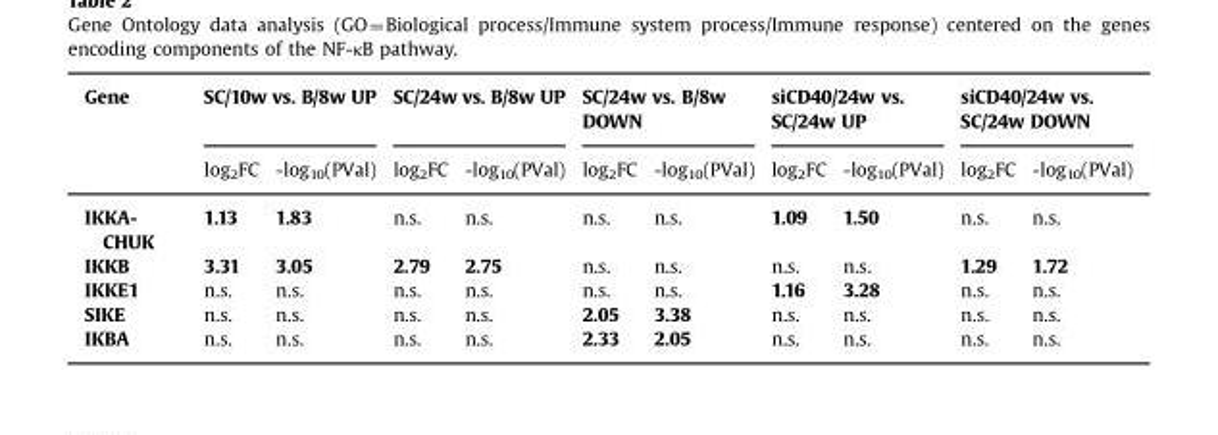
<table><thead><tr><td rowspan="2">Gene</td><td colspan="2">SC/10w vs. B/8w UP</td><td colspan="2">SC/24w vs. B/8w UP</td><td colspan="2">SC/24w vs. B/8w DOWN</td><td colspan="2">siCD40/24w vs. SC/24w UP</td><td colspan="2">siCD40/24w vs. SC/24w DOWN</td></tr><tr><td>log<sub>2</sub>FC</td><td>-log<sub>10</sub>(PVal)</td><td>log<sub>2</sub>FC</td><td>-log<sub>10</sub>(PVal)</td><td>log<sub>2</sub>FC</td><td>-log<sub>10</sub>(PVal)</td><td>log<sub>2</sub>FC</td><td>-log<sub>10</sub>(PVal)</td><td>log<sub>2</sub>FC</td><td>-log<sub>10</sub>(PVal)</td></tr></thead><tbody><tr><td>IKKA- CHUK</td><td>1.13</td><td>1.83</td><td>n.s.</td><td>n.s.</td><td>n.s.</td><td>n.s.</td><td>1.09</td><td>1.50</td><td>n.s.</td><td>n.s.</td></tr><tr><td>IKKB</td><td>3.31</td><td>3.05</td><td>2.79</td><td>2.75</td><td>n.s.</td><td>n.s.</td><td>n.s.</td><td>n.s.</td><td>1.29</td><td>1.72</td></tr><tr><td>IKKE1</td><td>n.s.</td><td>n.s.</td><td>n.s.</td><td>n.s.</td><td>n.s.</td><td>n.s.</td><td>1.16</td><td>3.28</td><td>n.s.</td><td>n.s.</td></tr><tr><td>SIKE</td><td>n.s.</td><td>n.s.</td><td>n.s.</td><td>n.s.</td><td>2.05</td><td>3.38</td><td>n.s.</td><td>n.s.</td><td>n.s.</td><td>n.s.</td></tr><tr><td>IKBA</td><td>n.s.</td><td>n.s.</td><td>n.s.</td><td>n.s.</td><td>2.33</td><td>2.05</td><td>n.s.</td><td>n.s.</td><td>n.s.</td><td>n.s.</td></tr></tbody></table>